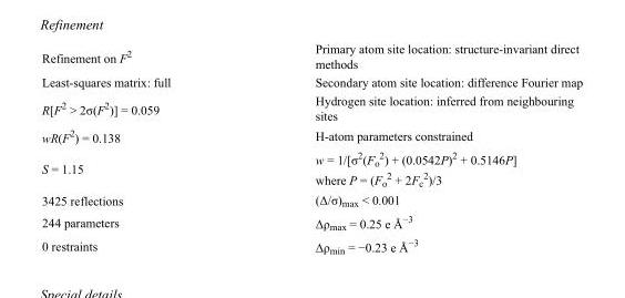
<table><tbody><tr><td>Refinement on F<sup>2</sup></td><td>Primary atom site location: structure-invariant direct methods</td></tr><tr><td>Least-squares matrix: full</td><td>Secondary atom site location: difference Fourier map</td></tr><tr><td>R[F<sup>2</sup> &gt; 2σ(F<sup>2</sup>)] = 0.059</td><td>Hydrogen site location: inferred from neighbouring sites</td></tr><tr><td>wR(F<sup>2</sup>) = 0.138</td><td>H-atom parameters constrained</td></tr><tr><td>S = 1.15</td><td>w = 1/[σ<sup>2</sup>(F<sub>o</sub> <sup>2</sup>) + (0.0542P)<sup>2</sup> + 0.5146P] where P = (F<sub>o</sub> <sup>2</sup> + 2F<sub>c</sub> <sup>2</sup>)/3</td></tr><tr><td>3425 reflections</td><td>(Δ/σ)<sub>max</sub> &lt; 0.001</td></tr><tr><td>244 parameters</td><td>Δρ<sub>max</sub> = 0.25 e Å<sup>−3</sup></td></tr><tr><td>0 restraints</td><td>Δρ<sub>min</sub> = −0.23 e Å<sup>−3</sup></td></tr></tbody></table>